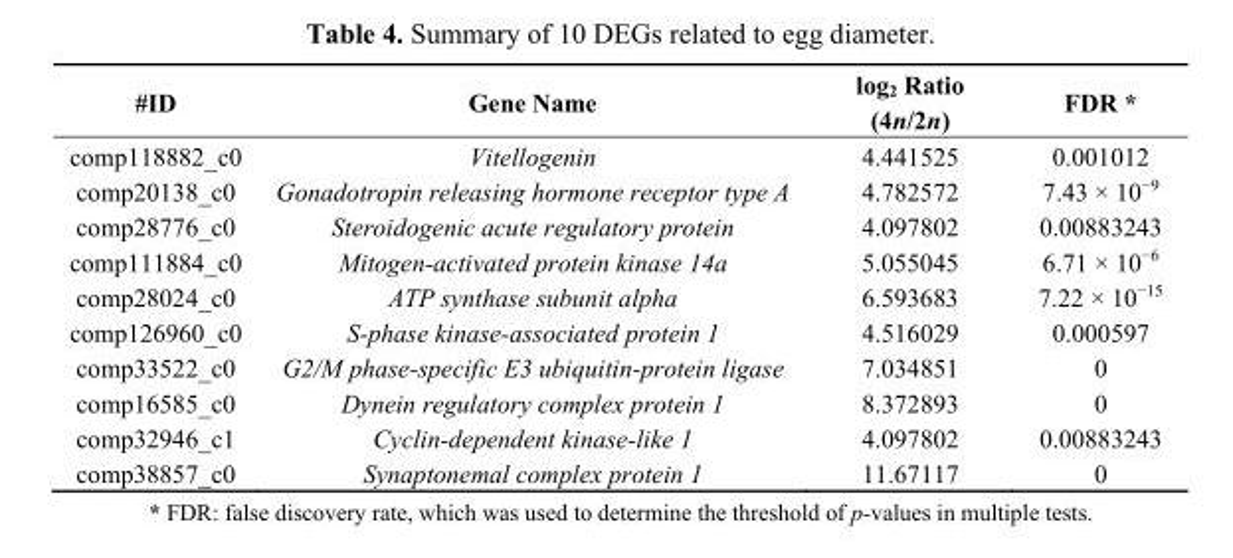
<table><thead><tr><td>#ID</td><td>Gene Name</td><td>log<sub>2</sub> Ratio (4n/2n)</td><td>FDR *</td></tr></thead><tbody><tr><td>comp118882_c0</td><td>Vitellogenin</td><td>4.441525</td><td>0.001012</td></tr><tr><td>comp20138_c0</td><td>Gonadotropin releasing hormone receptor type A</td><td>4.782572</td><td>7.43 × 10<sup>−9</sup></td></tr><tr><td>comp28776_c0</td><td>Steroidogenic acute regulatory protein</td><td>4.097802</td><td>0.00883243</td></tr><tr><td>comp111884_c0</td><td>Mitogen-activated protein kinase 14a</td><td>5.055045</td><td>6.71 × 10<sup>−6</sup></td></tr><tr><td>comp28024_c0</td><td>ATP synthase subunit alpha</td><td>6.593683</td><td>7.22 × 10<sup>−15</sup></td></tr><tr><td>comp126960_c0</td><td>S-phase kinase-associated protein 1</td><td>4.516029</td><td>0.000597</td></tr><tr><td>comp33522_c0</td><td>G2/M phase-specific E3 ubiquitin-protein ligase</td><td>7.034851</td><td>0</td></tr><tr><td>comp16585_c0</td><td>Dynein regulatory complex protein 1</td><td>8.372893</td><td>0</td></tr><tr><td>comp32946_c1</td><td>Cyclin-dependent kinase-like 1</td><td>4.097802</td><td>0.00883243</td></tr><tr><td>comp38857_c0</td><td>Synaptonemal complex protein 1</td><td>11.67117</td><td>0</td></tr></tbody></table>